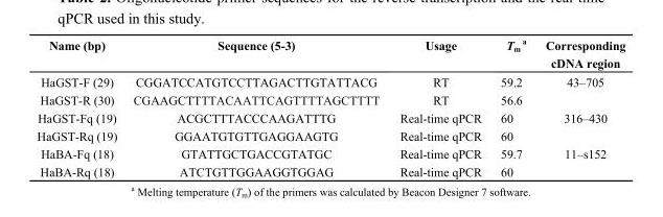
<table><thead><tr><td>Name (bp)</td><td>Sequence (5-3)</td><td>Usage</td><td>T<sub>m</sub> <sup>a</sup></td><td>Corresponding cDNA region</td></tr></thead><tbody><tr><td>HaGST-F (29)</td><td>CGGATCCATGTCCTTAGACTTGTATTACG</td><td>RT</td><td>59.2</td><td>43–705</td></tr><tr><td>HaGST-R (30)</td><td>CGAAGCTTTTACAATTCAGTTTTAGCTTTT</td><td>RT</td><td>56.6</td><td></td></tr><tr><td>HaGST-Fq (19)</td><td>ACGCTTTACCCAAGATTTG</td><td>Real-time qPCR</td><td>60</td><td>316–430</td></tr><tr><td>HaGST-Rq (19)</td><td>GGAATGTGTTGAGGAAGTG</td><td>Real-time qPCR</td><td>60</td><td></td></tr><tr><td>HaBA-Fq (18)</td><td>GTATTGCTGACCGTATGC</td><td>Real-time qPCR</td><td>59.7</td><td>11–s152</td></tr><tr><td>HaBA-Rq (18)</td><td>ATCTGTTGGAAGGTGGAG</td><td>Real-time qPCR</td><td>60</td><td></td></tr></tbody></table>